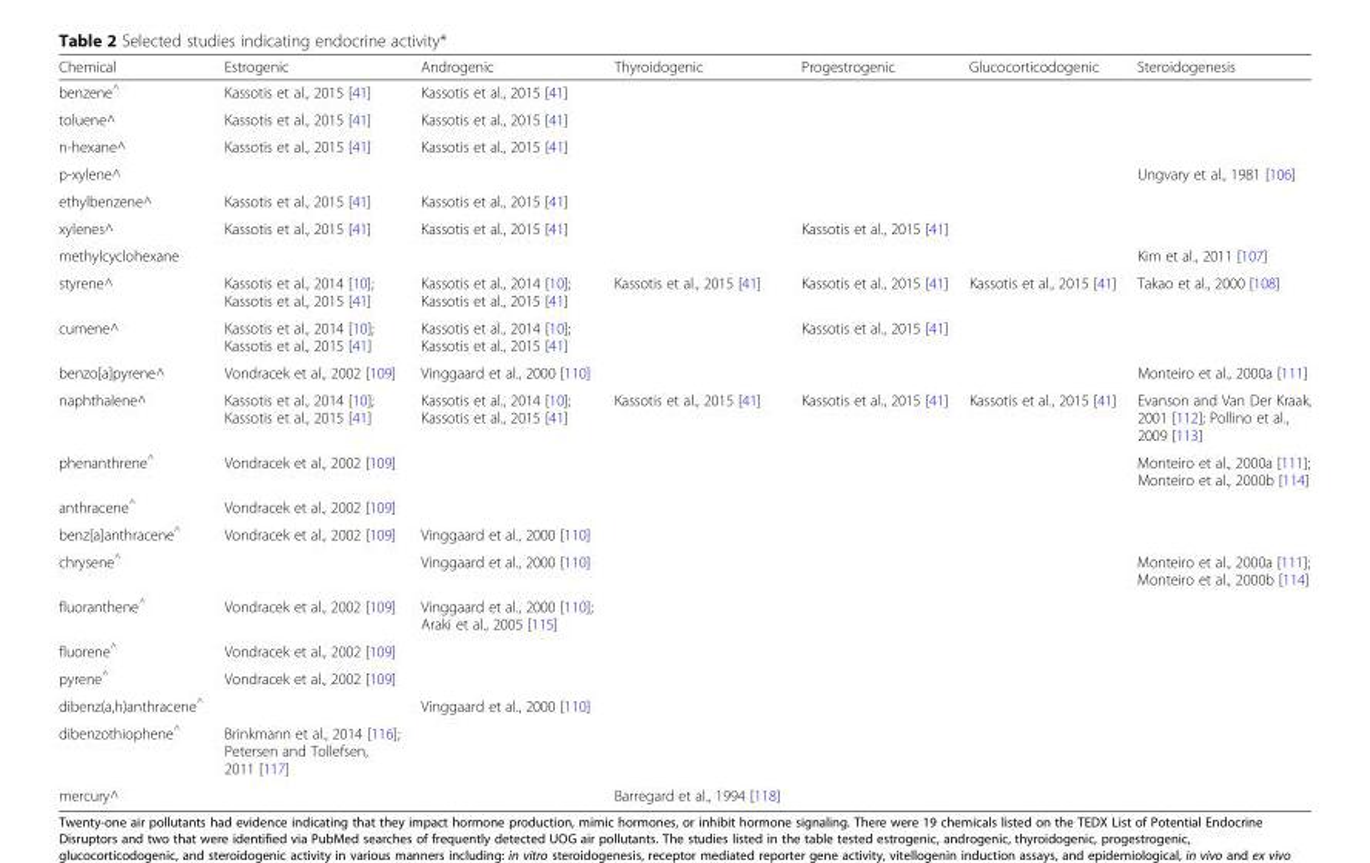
<table><thead><tr><td>Chemical</td><td>Estrogenic</td><td>Androgenic</td><td>Thyroidogenic</td><td>Progestrogenic</td><td>Glucocorticodogenic</td><td>Steroidogenesis</td></tr></thead><tbody><tr><td>benzene<sup>^</sup></td><td>Kassotis et al., 2015 [41]</td><td>Kassotis et al., 2015 [41]</td><td></td><td></td><td></td><td></td></tr><tr><td>toluene^</td><td>Kassotis et al., 2015 [41]</td><td>Kassotis et al., 2015 [41]</td><td></td><td></td><td></td><td></td></tr><tr><td>n-hexane^</td><td>Kassotis et al., 2015 [41]</td><td>Kassotis et al., 2015 [41]</td><td></td><td></td><td></td><td></td></tr><tr><td>p-xylene^</td><td></td><td></td><td></td><td></td><td></td><td>Ungvary et al., 1981 [106]</td></tr><tr><td>ethylbenzene^</td><td>Kassotis et al., 2015 [41]</td><td>Kassotis et al., 2015 [41]</td><td></td><td></td><td></td><td></td></tr><tr><td>xylenes^</td><td>Kassotis et al., 2015 [41]</td><td>Kassotis et al., 2015 [41]</td><td></td><td>Kassotis et al., 2015 [41]</td><td></td><td></td></tr><tr><td>methylcyclohexane</td><td></td><td></td><td></td><td></td><td></td><td>Kim et al., 2011 [107]</td></tr><tr><td>styrene^</td><td>Kassotis et al., 2014 [10]; Kassotis et al., 2015 [41]</td><td>Kassotis et al., 2014 [10]; Kassotis et al., 2015 [41]</td><td>Kassotis et al., 2015 [41]</td><td>Kassotis et al., 2015 [41]</td><td>Kassotis et al., 2015 [41]</td><td>Takao et al., 2000 [108]</td></tr><tr><td>cumene^</td><td>Kassotis et al., 2014 [10]; Kassotis et al., 2015 [41]</td><td>Kassotis et al., 2014 [10]; Kassotis et al., 2015 [41]</td><td></td><td>Kassotis et al., 2015 [41]</td><td></td><td></td></tr><tr><td>benzo[a]pyrene^</td><td>Vondracek et al., 2002 [109]</td><td>Vinggaard et al., 2000 [110]</td><td></td><td></td><td></td><td>Monteiro et al., 2000a [111]</td></tr><tr><td>naphthalene^</td><td>Kassotis et al., 2014 [10]; Kassotis et al., 2015 [41]</td><td>Kassotis et al., 2014 [10]; Kassotis et al., 2015 [41]</td><td>Kassotis et al., 2015 [41]</td><td>Kassotis et al., 2015 [41]</td><td>Kassotis et al., 2015 [41]</td><td>Evanson and Van Der Kraak, 2001 [112]; Pollino et al., 2009 [113]</td></tr><tr><td>phenanthrene<sup>^</sup></td><td>Vondracek et al., 2002 [109]</td><td></td><td></td><td></td><td></td><td>Monteiro et al., 2000a [111]; Monteiro et al., 2000b [114]</td></tr><tr><td>anthracene<sup>^</sup></td><td>Vondracek et al., 2002 [109]</td><td></td><td></td><td></td><td></td><td></td></tr><tr><td>benz[a]anthracene<sup>^</sup></td><td>Vondracek et al., 2002 [109]</td><td>Vinggaard et al., 2000 [110]</td><td></td><td></td><td></td><td></td></tr><tr><td>chrysene<sup>^</sup></td><td></td><td>Vinggaard et al., 2000 [110]</td><td></td><td></td><td></td><td>Monteiro et al., 2000a [111]; Monteiro et al., 2000b [114]</td></tr><tr><td>fluoranthene<sup>^</sup></td><td>Vondracek et al., 2002 [109]</td><td>Vinggaard et al., 2000 [110]; Araki et al., 2005 [115]</td><td></td><td></td><td></td><td></td></tr><tr><td>fluorene<sup>^</sup></td><td>Vondracek et al., 2002 [109]</td><td></td><td></td><td></td><td></td><td></td></tr><tr><td>pyrene<sup>^</sup></td><td>Vondracek et al., 2002 [109]</td><td></td><td></td><td></td><td></td><td></td></tr><tr><td>dibenz(a,h)anthracene<sup>^</sup></td><td></td><td>Vinggaard et al., 2000 [110]</td><td></td><td></td><td></td><td></td></tr><tr><td>dibenzothiophene<sup>^</sup></td><td>Brinkmann et al., 2014 [116]; Petersen and Tollefsen, 2011 [117]</td><td></td><td></td><td></td><td></td><td></td></tr><tr><td>mercury^</td><td></td><td></td><td>Barregard et al., 1994 [118]</td><td></td><td></td><td></td></tr></tbody></table>